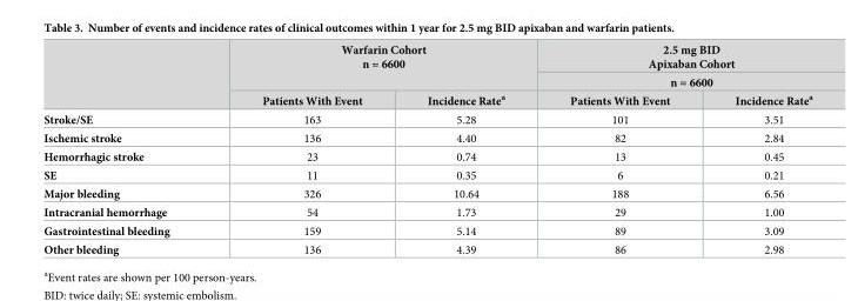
<table><thead><tr><td rowspan="3"></td><td rowspan="2" colspan="2">Warfarin Cohort n = 6600</td><td rowspan="2" colspan="2">2.5 mg BID Apixaban Cohort n = 6600</td></tr><tr></tr><tr><td>Patients With Event</td><td>Incidence Rate<sup>a</sup></td><td>Patients With Event</td><td>Incidence Rate<sup>a</sup></td></tr></thead><tbody><tr><td>Stroke/SE</td><td>163</td><td>5.28</td><td>101</td><td>3.51</td></tr><tr><td>Ischemic stroke</td><td>136</td><td>4.40</td><td>82</td><td>2.84</td></tr><tr><td>Hemorrhagic stroke</td><td>23</td><td>0.74</td><td>13</td><td>0.45</td></tr><tr><td>SE</td><td>11</td><td>0.35</td><td>6</td><td>0.21</td></tr><tr><td>Major bleeding</td><td>326</td><td>10.64</td><td>188</td><td>6.56</td></tr><tr><td>Intracranial hemorrhage</td><td>54</td><td>1.73</td><td>29</td><td>1.00</td></tr><tr><td>Gastrointestinal bleeding</td><td>159</td><td>5.14</td><td>89</td><td>3.09</td></tr><tr><td>Other bleeding</td><td>136</td><td>4.39</td><td>86</td><td>2.98</td></tr></tbody></table>